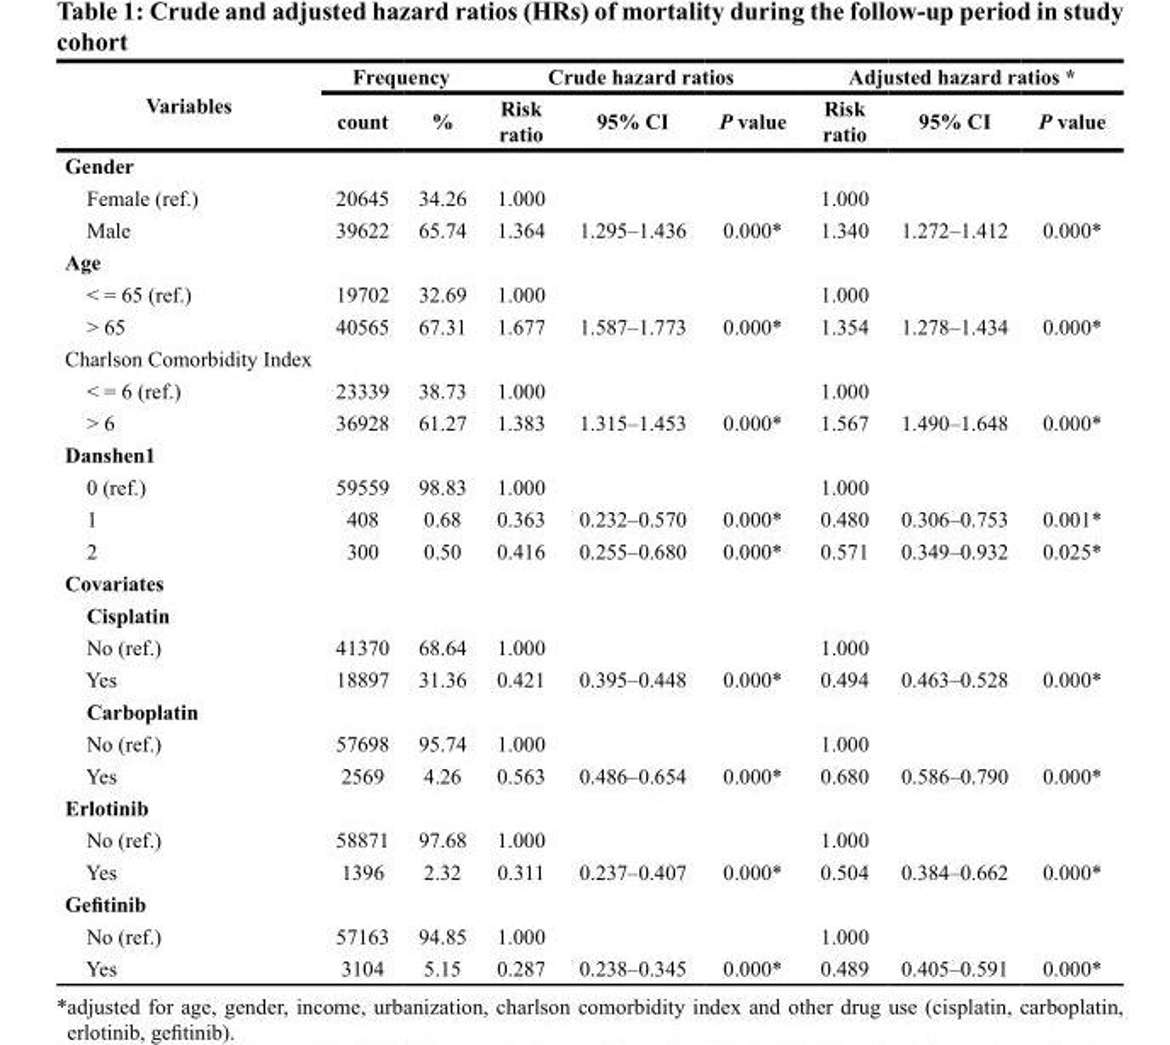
<table><thead><tr><td rowspan="2">Variables</td><td colspan="2">Frequency</td><td colspan="3">Crude hazard ratios</td><td colspan="3">Adjusted hazard ratios *</td></tr><tr><td>count</td><td>%</td><td>Risk ratio</td><td>95% CI</td><td>P value</td><td>Risk ratio</td><td>95% CI</td><td>P value</td></tr></thead><tbody><tr><td colspan="9">Gender</td></tr><tr><td>Female (ref.)</td><td>20645</td><td>34.26</td><td>1.000</td><td></td><td></td><td>1.000</td><td></td><td></td></tr><tr><td>Male</td><td>39622</td><td>65.74</td><td>1.364</td><td>1.295–1.436</td><td>0.000*</td><td>1.340</td><td>1.272–1.412</td><td>0.000*</td></tr><tr><td colspan="9">Age</td></tr><tr><td>&lt; = 65 (ref.)</td><td>19702</td><td>32.69</td><td>1.000</td><td></td><td></td><td>1.000</td><td></td><td></td></tr><tr><td>&gt; 65</td><td>40565</td><td>67.31</td><td>1.677</td><td>1.587–1.773</td><td>0.000*</td><td>1.354</td><td>1.278–1.434</td><td>0.000*</td></tr><tr><td colspan="9">Charlson Comorbidity Index</td></tr><tr><td>&lt; = 6 (ref.)</td><td>23339</td><td>38.73</td><td>1.000</td><td></td><td></td><td>1.000</td><td></td><td></td></tr><tr><td>&gt; 6</td><td>36928</td><td>61.27</td><td>1.383</td><td>1.315–1.453</td><td>0.000*</td><td>1.567</td><td>1.490–1.648</td><td>0.000*</td></tr><tr><td colspan="9">Danshen1</td></tr><tr><td>0 (ref.)</td><td>59559</td><td>98.83</td><td>1.000</td><td></td><td></td><td>1.000</td><td></td><td></td></tr><tr><td>1</td><td>408</td><td>0.68</td><td>0.363</td><td>0.232–0.570</td><td>0.000*</td><td>0.480</td><td>0.306–0.753</td><td>0.001*</td></tr><tr><td>2</td><td>300</td><td>0.50</td><td>0.416</td><td>0.255–0.680</td><td>0.000*</td><td>0.571</td><td>0.349–0.932</td><td>0.025*</td></tr><tr><td colspan="9">Covariates</td></tr><tr><td colspan="9">Cisplatin</td></tr><tr><td>No (ref.)</td><td>41370</td><td>68.64</td><td>1.000</td><td></td><td></td><td>1.000</td><td></td><td></td></tr><tr><td>Yes</td><td>18897</td><td>31.36</td><td>0.421</td><td>0.395–0.448</td><td>0.000*</td><td>0.494</td><td>0.463–0.528</td><td>0.000*</td></tr><tr><td colspan="9">Carboplatin</td></tr><tr><td>No (ref.)</td><td>57698</td><td>95.74</td><td>1.000</td><td></td><td></td><td>1.000</td><td></td><td></td></tr><tr><td>Yes</td><td>2569</td><td>4.26</td><td>0.563</td><td>0.486–0.654</td><td>0.000*</td><td>0.680</td><td>0.586–0.790</td><td>0.000*</td></tr><tr><td colspan="9">Erlotinib</td></tr><tr><td>No (ref.)</td><td>58871</td><td>97.68</td><td>1.000</td><td></td><td></td><td>1.000</td><td></td><td></td></tr><tr><td>Yes</td><td>1396</td><td>2.32</td><td>0.311</td><td>0.237–0.407</td><td>0.000*</td><td>0.504</td><td>0.384–0.662</td><td>0.000*</td></tr><tr><td colspan="9">Gefitinib</td></tr><tr><td>No (ref.)</td><td>57163</td><td>94.85</td><td>1.000</td><td></td><td></td><td>1.000</td><td></td><td></td></tr><tr><td>Yes</td><td>3104</td><td>5.15</td><td>0.287</td><td>0.238–0.345</td><td>0.000*</td><td>0.489</td><td>0.405–0.591</td><td>0.000*</td></tr></tbody></table>